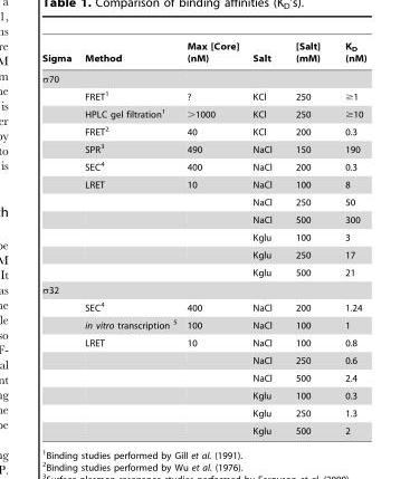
<table><thead><tr><td>Sigma</td><td>Method</td><td>Max [Core] (nM)</td><td>Salt</td><td>[Salt] (mM)</td><td>K<sub>D</sub> (nM)</td></tr></thead><tbody><tr><td colspan="6">σ70</td></tr><tr><td></td><td>FRET<sup>1</sup></td><td>?</td><td>KCl</td><td>250</td><td>≥1</td></tr><tr><td></td><td>HPLC gel filtration<sup>1</sup></td><td>&gt;1000</td><td>KCl</td><td>250</td><td>≥10</td></tr><tr><td></td><td>FRET<sup>2</sup></td><td>40</td><td>KCl</td><td>200</td><td>0.3</td></tr><tr><td></td><td>SPR<sup>3</sup></td><td>490</td><td>NaCl</td><td>150</td><td>190</td></tr><tr><td></td><td>SEC<sup>4</sup></td><td>400</td><td>NaCl</td><td>200</td><td>0.3</td></tr><tr><td></td><td>LRET</td><td>10</td><td>NaCl</td><td>100</td><td>8</td></tr><tr><td></td><td></td><td></td><td>NaCl</td><td>250</td><td>50</td></tr><tr><td></td><td></td><td></td><td>NaCl</td><td>500</td><td>300</td></tr><tr><td></td><td></td><td></td><td>Kglu</td><td>100</td><td>3</td></tr><tr><td></td><td></td><td></td><td>Kglu</td><td>250</td><td>17</td></tr><tr><td></td><td></td><td></td><td>Kglu</td><td>500</td><td>21</td></tr><tr><td colspan="6">σ32</td></tr><tr><td></td><td>SEC<sup>4</sup></td><td>400</td><td>NaCl</td><td>200</td><td>1.24</td></tr><tr><td></td><td>in vitro transcription 5</td><td>100</td><td>NaCl</td><td>100</td><td>1</td></tr><tr><td></td><td>LRET</td><td>10</td><td>NaCl</td><td>100</td><td>0.8</td></tr><tr><td></td><td></td><td></td><td>NaCl</td><td>250</td><td>0.6</td></tr><tr><td></td><td></td><td></td><td>NaCl</td><td>500</td><td>2.4</td></tr><tr><td></td><td></td><td></td><td>Kglu</td><td>100</td><td>0.3</td></tr><tr><td></td><td></td><td></td><td>Kglu</td><td>250</td><td>1.3</td></tr><tr><td></td><td></td><td></td><td>Kglu</td><td>500</td><td>2</td></tr></tbody></table>